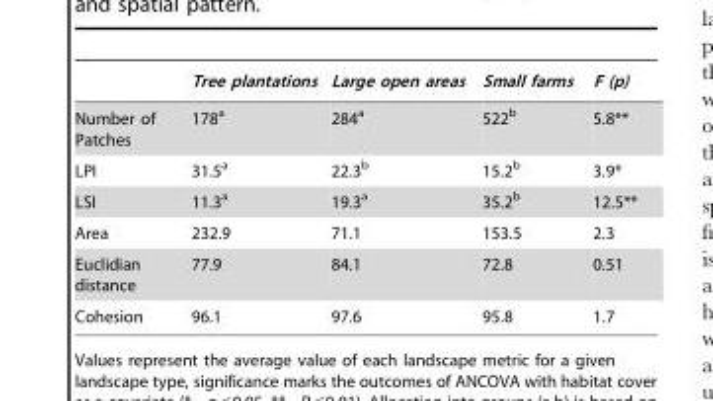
<table><thead><tr><td></td><td>Tree plantations</td><td>Large open areas</td><td>Small farms</td><td>F (p)</td></tr></thead><tbody><tr><td>Number of Patches</td><td>178<sup>a</sup></td><td>284<sup>a</sup></td><td>522<sup>b</sup></td><td>5.8**</td></tr><tr><td>LPI</td><td>31.5<sup>a</sup></td><td>22.3<sup>b</sup></td><td>15.2<sup>b</sup></td><td>3.9*</td></tr><tr><td>LSI</td><td>11.3<sup>a</sup></td><td>19.3<sup>a</sup></td><td>35.2<sup>b</sup></td><td>12.5**</td></tr><tr><td>Area</td><td>232.9</td><td>71.1</td><td>153.5</td><td>2.3</td></tr><tr><td>Euclidian distance</td><td>77.9</td><td>84.1</td><td>72.8</td><td>0.51</td></tr><tr><td>Cohesion</td><td>96.1</td><td>97.6</td><td>95.8</td><td>1.7</td></tr></tbody></table>